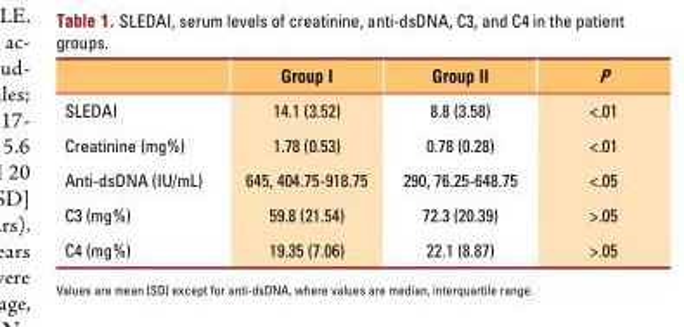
<table><thead><tr><td></td><td>Group I</td><td>Group II</td><td>P</td></tr></thead><tbody><tr><td>SLEDAI</td><td>14.1 (3.52)</td><td>8.8 (3.58)</td><td>&lt;.01</td></tr><tr><td>Creatinine (mg%)</td><td>1.78 (0.53)</td><td>0.78 (0.28)</td><td>&lt;.01</td></tr><tr><td>Anti-dsDNA (IU/mL)</td><td>645, 404.75-918.75</td><td>290, 76.25-648.75</td><td>&lt;.05</td></tr><tr><td>C3 (mg%)</td><td>59.8 (21.54)</td><td>72.3 (20.39)</td><td>&gt;.05</td></tr><tr><td>C4 (mg%)</td><td>19.35 (7.06)</td><td>22.1 (8.87)</td><td>&gt;.05</td></tr></tbody></table>